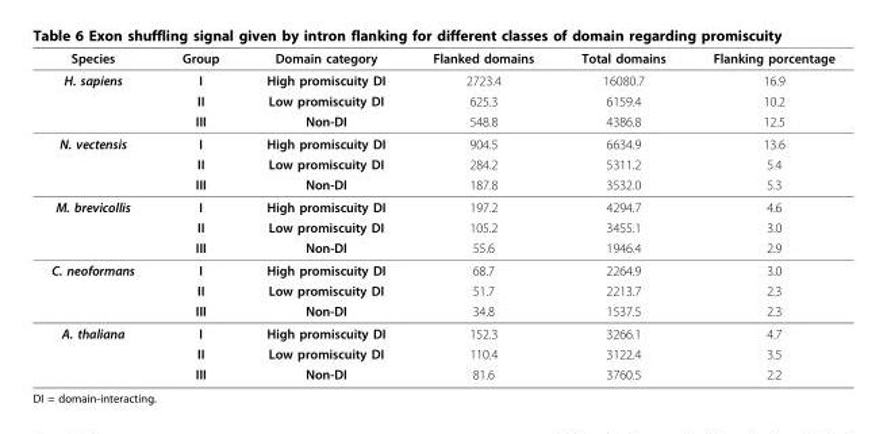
<table><thead><tr><td>Species</td><td>Group</td><td>Domain category</td><td>Flanked domains</td><td>Total domains</td><td>Flanking porcentage</td></tr></thead><tbody><tr><td rowspan="3">H. sapiens</td><td>I</td><td>High promiscuity DI</td><td>2723.4</td><td>16080.7</td><td>16.9</td></tr><tr><td>II</td><td>Low promiscuity DI</td><td>625.3</td><td>6159.4</td><td>10.2</td></tr><tr><td>III</td><td>Non-DI</td><td>548.8</td><td>4386.8</td><td>12.5</td></tr><tr><td rowspan="3">N. vectensis</td><td>I</td><td>High promiscuity DI</td><td>904.5</td><td>6634.9</td><td>13.6</td></tr><tr><td>II</td><td>Low promiscuity DI</td><td>284.2</td><td>5311.2</td><td>5.4</td></tr><tr><td>III</td><td>Non-DI</td><td>187.8</td><td>3532.0</td><td>5.3</td></tr><tr><td rowspan="3">M. brevicollis</td><td>I</td><td>High promiscuity DI</td><td>197.2</td><td>4294.7</td><td>4.6</td></tr><tr><td>II</td><td>Low promiscuity DI</td><td>105.2</td><td>3455.1</td><td>3.0</td></tr><tr><td>III</td><td>Non-DI</td><td>55.6</td><td>1946.4</td><td>2.9</td></tr><tr><td rowspan="3">C. neoformans</td><td>I</td><td>High promiscuity DI</td><td>68.7</td><td>2264.9</td><td>3.0</td></tr><tr><td>II</td><td>Low promiscuity DI</td><td>51.7</td><td>2213.7</td><td>2.3</td></tr><tr><td>III</td><td>Non-DI</td><td>34.8</td><td>1537.5</td><td>2.3</td></tr><tr><td rowspan="3">A. thaliana</td><td>I</td><td>High promiscuity DI</td><td>152.3</td><td>3266.1</td><td>4.7</td></tr><tr><td>II</td><td>Low promiscuity DI</td><td>110.4</td><td>3122.4</td><td>3.5</td></tr><tr><td>III</td><td>Non-DI</td><td>81.6</td><td>3760.5</td><td>2.2</td></tr></tbody></table>